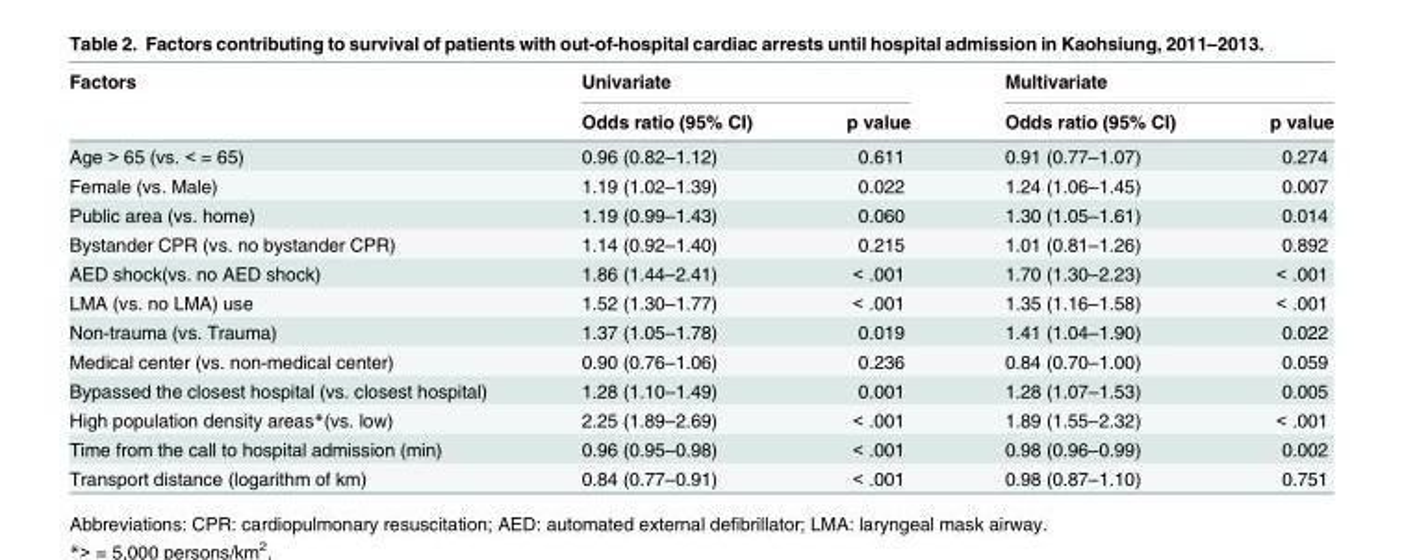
<table><thead><tr><td rowspan="2">Factors</td><td colspan="2">Univariate</td><td colspan="2">Multivariate</td></tr><tr><td>Odds ratio (95% CI)</td><td>p value</td><td>Odds ratio (95% CI)</td><td>p value</td></tr></thead><tbody><tr><td>Age &gt; 65 (vs. &lt; = 65)</td><td>0.96 (0.82–1.12)</td><td>0.611</td><td>0.91 (0.77–1.07)</td><td>0.274</td></tr><tr><td>Female (vs. Male)</td><td>1.19 (1.02–1.39)</td><td>0.022</td><td>1.24 (1.06–1.45)</td><td>0.007</td></tr><tr><td>Public area (vs. home)</td><td>1.19 (0.99–1.43)</td><td>0.060</td><td>1.30 (1.05–1.61)</td><td>0.014</td></tr><tr><td>Bystander CPR (vs. no bystander CPR)</td><td>1.14 (0.92–1.40)</td><td>0.215</td><td>1.01 (0.81–1.26)</td><td>0.892</td></tr><tr><td>AED shock(vs. no AED shock)</td><td>1.86 (1.44–2.41)</td><td>&lt; .001</td><td>1.70 (1.30–2.23)</td><td>&lt; .001</td></tr><tr><td>LMA (vs. no LMA) use</td><td>1.52 (1.30–1.77)</td><td>&lt; .001</td><td>1.35 (1.16–1.58)</td><td>&lt; .001</td></tr><tr><td>Non-trauma (vs. Trauma)</td><td>1.37 (1.05–1.78)</td><td>0.019</td><td>1.41 (1.04–1.90)</td><td>0.022</td></tr><tr><td>Medical center (vs. non-medical center)</td><td>0.90 (0.76–1.06)</td><td>0.236</td><td>0.84 (0.70–1.00)</td><td>0.059</td></tr><tr><td>Bypassed the closest hospital (vs. closest hospital)</td><td>1.28 (1.10–1.49)</td><td>0.001</td><td>1.28 (1.07–1.53)</td><td>0.005</td></tr><tr><td>High population density areas*(vs. low)</td><td>2.25 (1.89–2.69)</td><td>&lt; .001</td><td>1.89 (1.55–2.32)</td><td>&lt; .001</td></tr><tr><td>Time from the call to hospital admission (min)</td><td>0.96 (0.95–0.98)</td><td>&lt; .001</td><td>0.98 (0.96–0.99)</td><td>0.002</td></tr><tr><td>Transport distance (logarithm of km)</td><td>0.84 (0.77–0.91)</td><td>&lt; .001</td><td>0.98 (0.87–1.10)</td><td>0.751</td></tr></tbody></table>